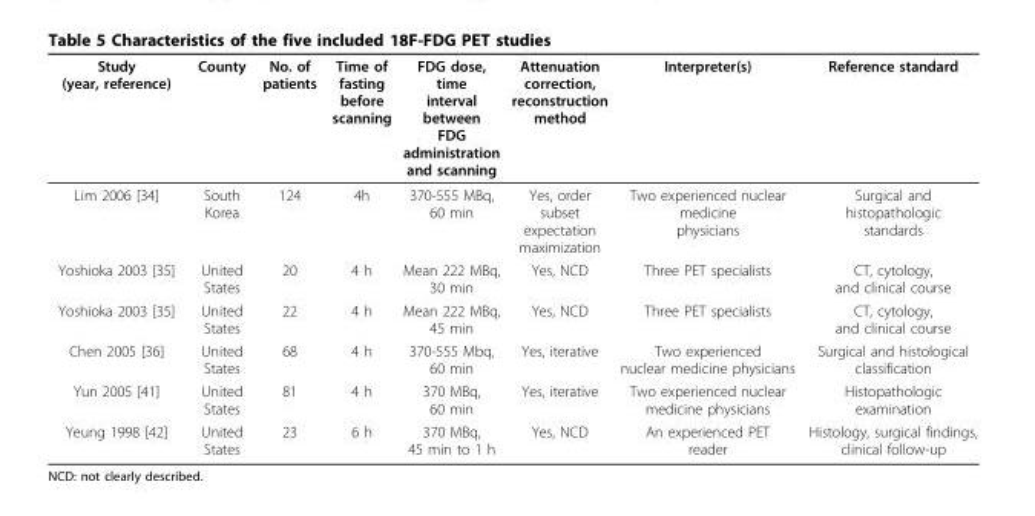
<table><thead><tr><td>Study (year, reference)</td><td>County</td><td>No. of patients</td><td>Time of fasting before scanning</td><td>FDG dose, time interval between FDG administration and scanning</td><td>Attenuation correction, reconstruction method</td><td>Interpreter(s)</td><td>Reference standard</td></tr></thead><tbody><tr><td>Lim 2006 [34]</td><td>South Korea</td><td>124</td><td>4h</td><td>370-555 MBq, 60 min</td><td>Yes, order subset expectation maximization</td><td>Two experienced nuclear medicine physicians</td><td>Surgical and histopathologic standards</td></tr><tr><td>Yoshioka 2003 [35]</td><td>United States</td><td>20</td><td>4 h</td><td>Mean 222 MBq, 30 min</td><td>Yes, NCD</td><td>Three PET specialists</td><td>CT, cytology, and clinical course</td></tr><tr><td>Yoshioka 2003 [35]</td><td>United States</td><td>22</td><td>4 h</td><td>Mean 222 MBq, 45 min</td><td>Yes, NCD</td><td>Three PET specialists</td><td>CT, cytology, and clinical course</td></tr><tr><td>Chen 2005 [36]</td><td>United States</td><td>68</td><td>4 h</td><td>370-555 Mbq, 60 min</td><td>Yes, iterative</td><td>Two experienced nuclear medicine physicians</td><td>Surgical and histological classification</td></tr><tr><td>Yun 2005 [41]</td><td>United States</td><td>81</td><td>4 h</td><td>370 MBq, 60 min</td><td>Yes, iterative</td><td>Two experienced nuclear medicine physicians</td><td>Histopathologic examination</td></tr><tr><td>Yeung 1998 [42]</td><td>United States</td><td>23</td><td>6 h</td><td>370 MBq, 45 min to 1 h</td><td>Yes, NCD</td><td>An experienced PET reader</td><td>Histology, surgical findings, clinical follow-up</td></tr></tbody></table>